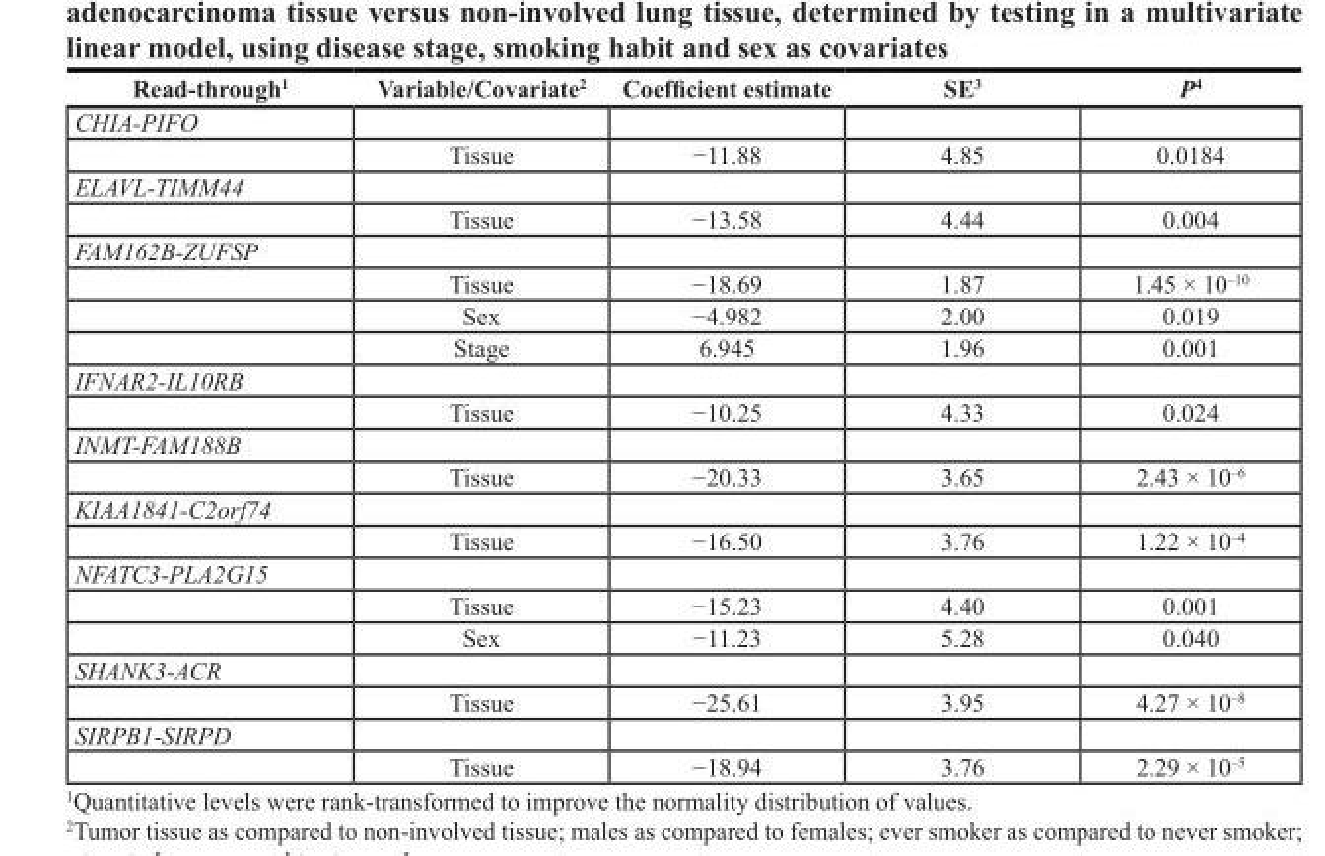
<table><thead><tr><td>Read‑through<sup>1</sup></td><td>Variable/Covariate<sup>2</sup></td><td>Coefficient estimate</td><td>SE<sup>3</sup></td><td>P<sup>4</sup></td></tr></thead><tbody><tr><td colspan="5">CHIA-PIFO</td></tr><tr><td></td><td>Tissue</td><td>−11.88</td><td>4.85</td><td>0.0184</td></tr><tr><td colspan="5">ELAVL-TIMM44</td></tr><tr><td></td><td>Tissue</td><td>−13.58</td><td>4.44</td><td>0.004</td></tr><tr><td colspan="5">FAM162B-ZUFSP</td></tr><tr><td></td><td>Tissue</td><td>−18.69</td><td>1.87</td><td>1.45 × 10<sup>–10</sup></td></tr><tr><td></td><td>Sex</td><td>−4.982</td><td>2.00</td><td>0.019</td></tr><tr><td></td><td>Stage</td><td>6.945</td><td>1.96</td><td>0.001</td></tr><tr><td colspan="5">IFNAR2-IL10RB</td></tr><tr><td></td><td>Tissue</td><td>−10.25</td><td>4.33</td><td>0.024</td></tr><tr><td colspan="5">INMT-FAM188B</td></tr><tr><td></td><td>Tissue</td><td>−20.33</td><td>3.65</td><td>2.43 × 10<sup>–6</sup></td></tr><tr><td colspan="5">KIAA1841-C2orf74</td></tr><tr><td></td><td>Tissue</td><td>−16.50</td><td>3.76</td><td>1.22 × 10<sup>–4</sup></td></tr><tr><td colspan="5">NFATC3-PLA2G15</td></tr><tr><td></td><td>Tissue</td><td>−15.23</td><td>4.40</td><td>0.001</td></tr><tr><td></td><td>Sex</td><td>−11.23</td><td>5.28</td><td>0.040</td></tr><tr><td colspan="5">SHANK3-ACR</td></tr><tr><td></td><td>Tissue</td><td>−25.61</td><td>3.95</td><td>4.27 × 10<sup>–8</sup></td></tr><tr><td colspan="5">SIRPB1-SIRPD</td></tr><tr><td></td><td>Tissue</td><td>−18.94</td><td>3.76</td><td>2.29 × 10<sup>–5</sup></td></tr></tbody></table>